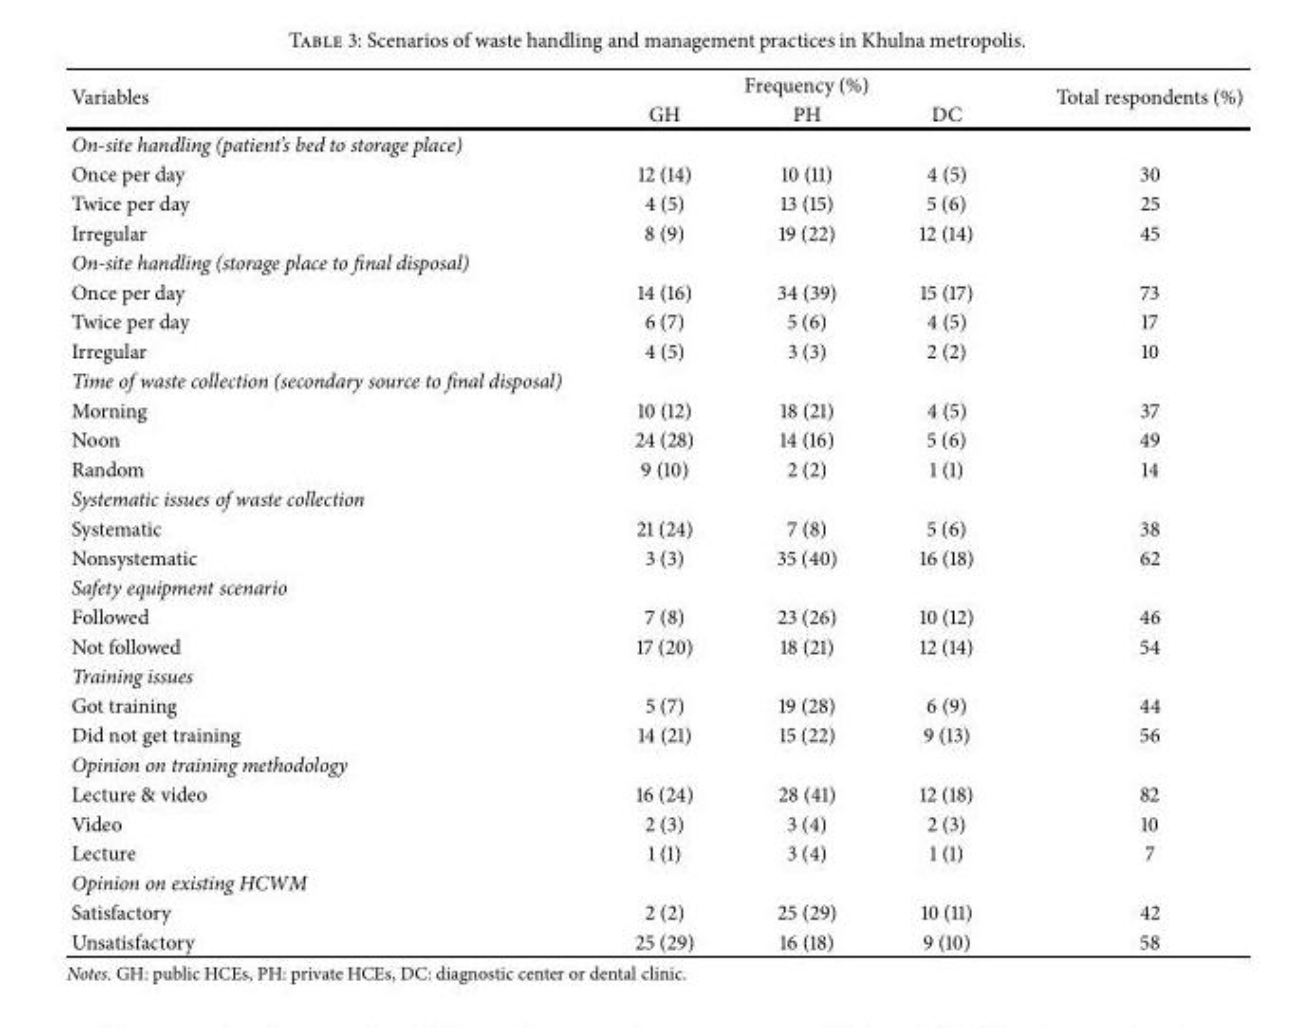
<table><thead><tr><td rowspan="2">Variables</td><td colspan="3">Frequency (%)</td><td rowspan="2">Total respondents (%)</td></tr><tr><td>GH</td><td>PH</td><td>DC</td></tr></thead><tbody><tr><td colspan="5">On-site handling (patient’s bed to storage place)</td></tr><tr><td>Once per day</td><td>12 (14)</td><td>10 (11)</td><td>4 (5)</td><td>30</td></tr><tr><td>Twice per day</td><td>4 (5)</td><td>13 (15)</td><td>5 (6)</td><td>25</td></tr><tr><td>Irregular</td><td>8 (9)</td><td>19 (22)</td><td>12 (14)</td><td>45</td></tr><tr><td colspan="5">On-site handling (storage place to final disposal)</td></tr><tr><td>Once per day</td><td>14 (16)</td><td>34 (39)</td><td>15 (17)</td><td>73</td></tr><tr><td>Twice per day</td><td>6 (7)</td><td>5 (6)</td><td>4 (5)</td><td>17</td></tr><tr><td>Irregular</td><td>4 (5)</td><td>3 (3)</td><td>2 (2)</td><td>10</td></tr><tr><td colspan="5">Time of waste collection (secondary source to final disposal)</td></tr><tr><td>Morning</td><td>10 (12)</td><td>18 (21)</td><td>4 (5)</td><td>37</td></tr><tr><td>Noon</td><td>24 (28)</td><td>14 (16)</td><td>5 (6)</td><td>49</td></tr><tr><td>Random</td><td>9 (10)</td><td>2 (2)</td><td>1 (1)</td><td>14</td></tr><tr><td colspan="5">Systematic issues of waste collection</td></tr><tr><td>Systematic</td><td>21 (24)</td><td>7 (8)</td><td>5 (6)</td><td>38</td></tr><tr><td>Nonsystematic</td><td>3 (3)</td><td>35 (40)</td><td>16 (18)</td><td>62</td></tr><tr><td colspan="5">Safety equipment scenario</td></tr><tr><td>Followed</td><td>7 (8)</td><td>23 (26)</td><td>10 (12)</td><td>46</td></tr><tr><td>Not followed</td><td>17 (20)</td><td>18 (21)</td><td>12 (14)</td><td>54</td></tr><tr><td colspan="5">Training issues</td></tr><tr><td>Got training</td><td>5 (7)</td><td>19 (28)</td><td>6 (9)</td><td>44</td></tr><tr><td>Did not get training</td><td>14 (21)</td><td>15 (22)</td><td>9 (13)</td><td>56</td></tr><tr><td colspan="5">Opinion on training methodology</td></tr><tr><td>Lecture &amp; video</td><td>16 (24)</td><td>28 (41)</td><td>12 (18)</td><td>82</td></tr><tr><td>Video</td><td>2 (3)</td><td>3 (4)</td><td>2 (3)</td><td>10</td></tr><tr><td>Lecture</td><td>1 (1)</td><td>3 (4)</td><td>1 (1)</td><td>7</td></tr><tr><td colspan="5">Opinion on existing HCWM</td></tr><tr><td>Satisfactory</td><td>2 (2)</td><td>25 (29)</td><td>10 (11)</td><td>42</td></tr><tr><td>Unsatisfactory</td><td>25 (29)</td><td>16 (18)</td><td>9 (10)</td><td>58</td></tr></tbody></table>